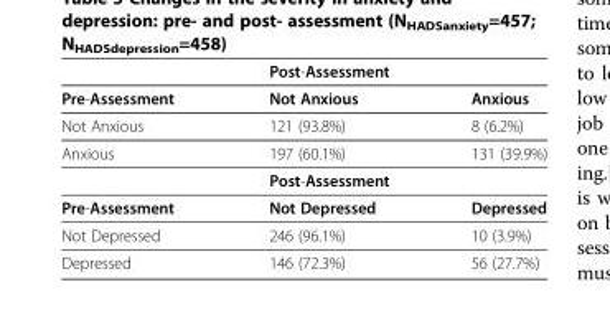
<table><thead><tr><td rowspan="2">Pre-Assessment</td><td colspan="2">Post-Assessment</td></tr><tr><td>Not Anxious</td><td>Anxious</td></tr></thead><tbody><tr><td>Not Anxious</td><td>121 (93.8%)</td><td>8 (6.2%)</td></tr><tr><td rowspan="2">Anxious</td><td>197 (60.1%)</td><td>131 (39.9%)</td></tr><tr><td colspan="2">Post-Assessment</td></tr><tr><td>Pre-Assessment</td><td>Not Depressed</td><td>Depressed</td></tr><tr><td>Not Depressed</td><td>246 (96.1%)</td><td>10 (3.9%)</td></tr><tr><td>Depressed</td><td>146 (72.3%)</td><td>56 (27.7%)</td></tr></tbody></table>